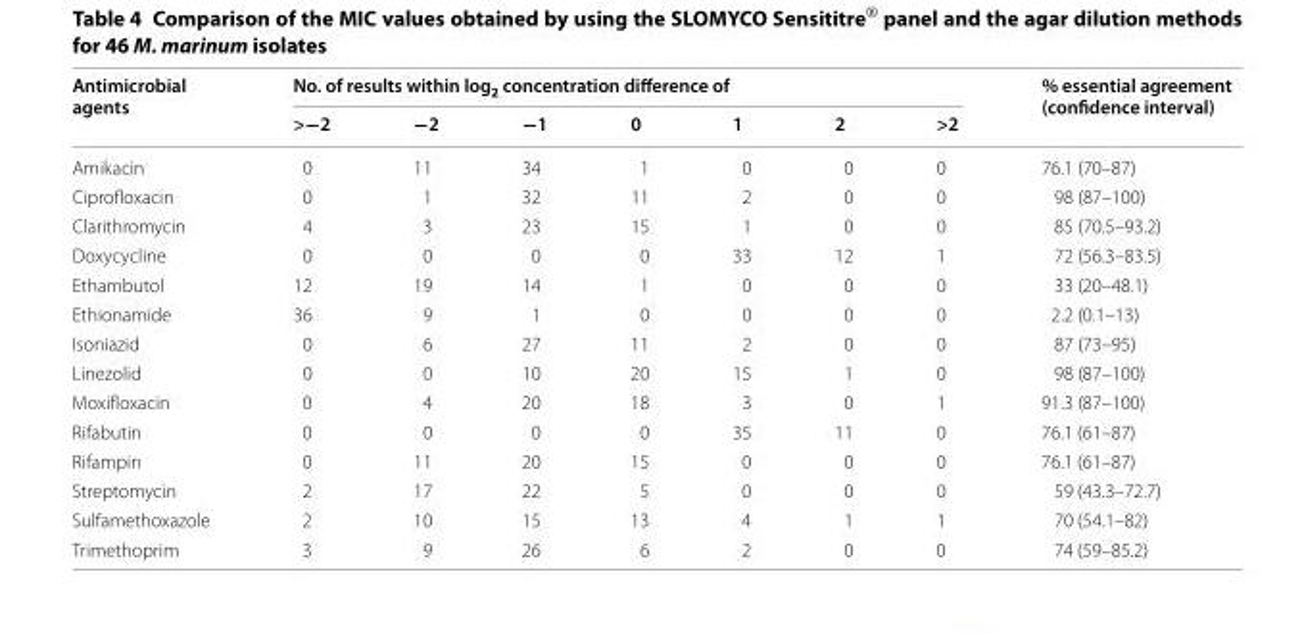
<table><thead><tr><td rowspan="2">Antimicrobial agents</td><td colspan="7">No. of results within log<sub>2</sub> concentration difference of</td><td rowspan="2">% essential agreement (confidence interval)</td></tr><tr><td>&gt;−2</td><td>−2</td><td>−1</td><td>0</td><td>1</td><td>2</td><td>&gt;2</td></tr></thead><tbody><tr><td>Amikacin</td><td>0</td><td>11</td><td>34</td><td>1</td><td>0</td><td>0</td><td>0</td><td>76.1 (70–87)</td></tr><tr><td>Ciprofloxacin</td><td>0</td><td>1</td><td>32</td><td>11</td><td>2</td><td>0</td><td>0</td><td>98 (87–100)</td></tr><tr><td>Clarithromycin</td><td>4</td><td>3</td><td>23</td><td>15</td><td>1</td><td>0</td><td>0</td><td>85 (70.5–93.2)</td></tr><tr><td>Doxycycline</td><td>0</td><td>0</td><td>0</td><td>0</td><td>33</td><td>12</td><td>1</td><td>72 (56.3–83.5)</td></tr><tr><td>Ethambutol</td><td>12</td><td>19</td><td>14</td><td>1</td><td>0</td><td>0</td><td>0</td><td>33 (20–48.1)</td></tr><tr><td>Ethionamide</td><td>36</td><td>9</td><td>1</td><td>0</td><td>0</td><td>0</td><td>0</td><td>2.2 (0.1–13)</td></tr><tr><td>Isoniazid</td><td>0</td><td>6</td><td>27</td><td>11</td><td>2</td><td>0</td><td>0</td><td>87 (73–95)</td></tr><tr><td>Linezolid</td><td>0</td><td>0</td><td>10</td><td>20</td><td>15</td><td>1</td><td>0</td><td>98 (87–100)</td></tr><tr><td>Moxifloxacin</td><td>0</td><td>4</td><td>20</td><td>18</td><td>3</td><td>0</td><td>1</td><td>91.3 (87–100)</td></tr><tr><td>Rifabutin</td><td>0</td><td>0</td><td>0</td><td>0</td><td>35</td><td>11</td><td>0</td><td>76.1 (61–87)</td></tr><tr><td>Rifampin</td><td>0</td><td>11</td><td>20</td><td>15</td><td>0</td><td>0</td><td>0</td><td>76.1 (61–87)</td></tr><tr><td>Streptomycin</td><td>2</td><td>17</td><td>22</td><td>5</td><td>0</td><td>0</td><td>0</td><td>59 (43.3–72.7)</td></tr><tr><td>Sulfamethoxazole</td><td>2</td><td>10</td><td>15</td><td>13</td><td>4</td><td>1</td><td>1</td><td>70 (54.1–82)</td></tr><tr><td>Trimethoprim</td><td>3</td><td>9</td><td>26</td><td>6</td><td>2</td><td>0</td><td>0</td><td>74 (59–85.2)</td></tr></tbody></table>